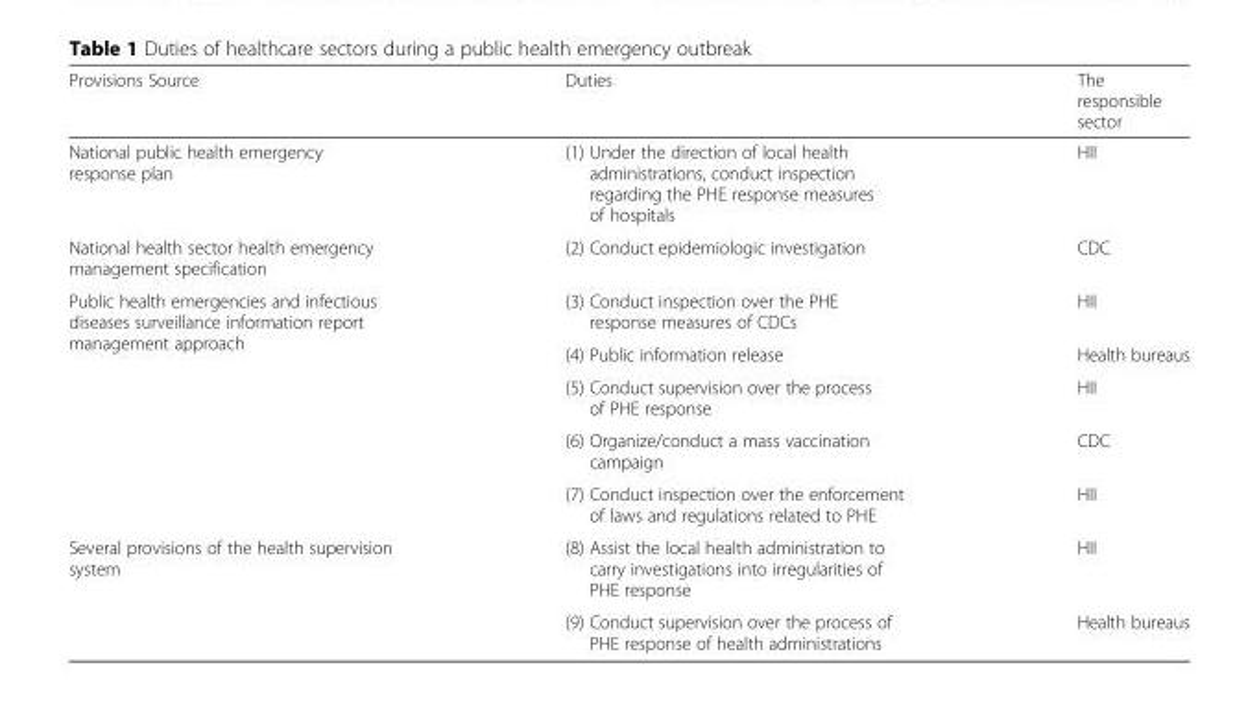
<table><thead><tr><td>Provisions Source</td><td>Duties</td><td>The responsible sector</td></tr></thead><tbody><tr><td>National public health emergency response plan</td><td>(1) Under the direction of local health administrations, conduct inspection regarding the PHE response measures of hospitals</td><td>HII</td></tr><tr><td>National health sector health emergency management specification</td><td>(2) Conduct epidemiologic investigation</td><td>CDC</td></tr><tr><td rowspan="5">Public health emergencies and infectious diseases surveillance information report management approach</td><td>(3) Conduct inspection over the PHE response measures of CDCs</td><td>HII</td></tr><tr><td>(4) Public information release</td><td>Health bureaus</td></tr><tr><td>(5) Conduct supervision over the process of PHE response</td><td>HII</td></tr><tr><td>(6) Organize/conduct a mass vaccination campaign</td><td>CDC</td></tr><tr><td>(7) Conduct inspection over the enforcement of laws and regulations related to PHE</td><td>HII</td></tr><tr><td rowspan="2">Several provisions of the health supervision system</td><td>(8) Assist the local health administration to carry investigations into irregularities of PHE response</td><td>HII</td></tr><tr><td>(9) Conduct supervision over the process of PHE response of health administrations</td><td>Health bureaus</td></tr></tbody></table>